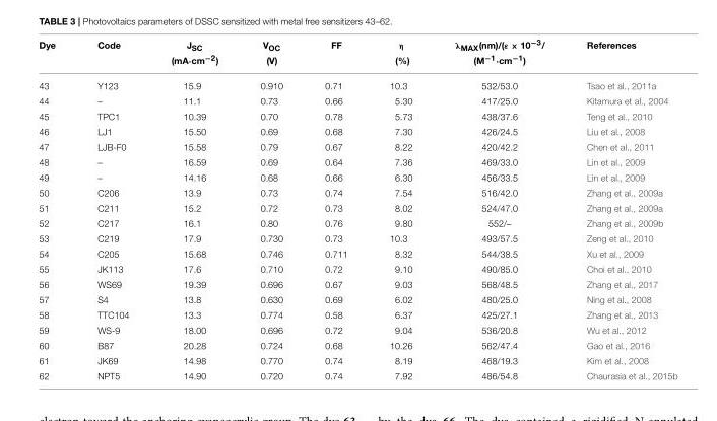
<table><thead><tr><td rowspan="2">Dye</td><td rowspan="2">Code</td><td rowspan="2">J<sub>SC</sub> (mA·cm<sup>−2</sup>)</td><td rowspan="2">V<sub>OC</sub> (V)</td><td rowspan="2">FF</td><td rowspan="2">η (%)</td><td rowspan="2">λ<sub>MAX</sub>(nm)/(ε × 10<sup>−3</sup>/ (M<sup>−1</sup>·cm<sup>−1</sup>)</td><td rowspan="2">References</td></tr><tr></tr></thead><tbody><tr><td>43</td><td>Y123</td><td>15.9</td><td>0.910</td><td>0.71</td><td>10.3</td><td>532/53.0</td><td>Tsao et al., 2011a</td></tr><tr><td>44</td><td>–</td><td>11.1</td><td>0.73</td><td>0.66</td><td>5.30</td><td>417/25.0</td><td>Kitamura et al., 2004</td></tr><tr><td>45</td><td>TPC1</td><td>10.39</td><td>0.70</td><td>0.78</td><td>5.73</td><td>438/37.6</td><td>Teng et al., 2010</td></tr><tr><td>46</td><td>LJ1</td><td>15.50</td><td>0.69</td><td>0.68</td><td>7.30</td><td>426/24.5</td><td>Liu et al., 2008</td></tr><tr><td>47</td><td>LJB-F0</td><td>15.58</td><td>0.79</td><td>0.67</td><td>8.22</td><td>420/42.2</td><td>Chen et al., 2011</td></tr><tr><td>48</td><td>–</td><td>16.59</td><td>0.69</td><td>0.64</td><td>7.36</td><td>469/33.0</td><td>Lin et al., 2009</td></tr><tr><td>49</td><td>–</td><td>14.16</td><td>0.68</td><td>0.66</td><td>6.30</td><td>456/33.5</td><td>Lin et al., 2009</td></tr><tr><td>50</td><td>C206</td><td>13.9</td><td>0.73</td><td>0.74</td><td>7.54</td><td>516/42.0</td><td>Zhang et al., 2009a</td></tr><tr><td>51</td><td>C211</td><td>15.2</td><td>0.72</td><td>0.73</td><td>8.02</td><td>524/47.0</td><td>Zhang et al., 2009a</td></tr><tr><td>52</td><td>C217</td><td>16.1</td><td>0.80</td><td>0.76</td><td>9.80</td><td>552/–</td><td>Zhang et al., 2009b</td></tr><tr><td>53</td><td>C219</td><td>17.9</td><td>0.730</td><td>0.73</td><td>10.3</td><td>493/57.5</td><td>Zeng et al., 2010</td></tr><tr><td>54</td><td>C205</td><td>15.68</td><td>0.746</td><td>0.711</td><td>8.32</td><td>544/38.5</td><td>Xu et al., 2009</td></tr><tr><td>55</td><td>JK113</td><td>17.6</td><td>0.710</td><td>0.72</td><td>9.10</td><td>490/85.0</td><td>Choi et al., 2010</td></tr><tr><td>56</td><td>WS69</td><td>19.39</td><td>0.696</td><td>0.67</td><td>9.03</td><td>568/48.5</td><td>Zhang et al., 2017</td></tr><tr><td>57</td><td>S4</td><td>13.8</td><td>0.630</td><td>0.69</td><td>6.02</td><td>480/25.0</td><td>Ning et al., 2008</td></tr><tr><td>58</td><td>TTC104</td><td>13.3</td><td>0.774</td><td>0.58</td><td>6.37</td><td>425/27.1</td><td>Zhang et al., 2013</td></tr><tr><td>59</td><td>WS-9</td><td>18.00</td><td>0.696</td><td>0.72</td><td>9.04</td><td>536/20.8</td><td>Wu et al., 2012</td></tr><tr><td>60</td><td>B87</td><td>20.28</td><td>0.724</td><td>0.68</td><td>10.26</td><td>562/47.4</td><td>Gao et al., 2016</td></tr><tr><td>61</td><td>JK69</td><td>14.98</td><td>0.770</td><td>0.74</td><td>8.19</td><td>468/19.3</td><td>Kim et al., 2008</td></tr><tr><td>62</td><td>NPT5</td><td>14.90</td><td>0.720</td><td>0.74</td><td>7.92</td><td>486/54.8</td><td>Chaurasia et al., 2015b</td></tr></tbody></table>